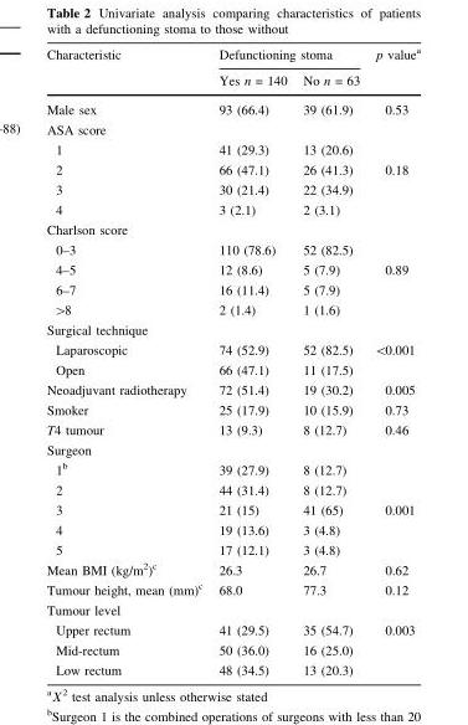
<table><thead><tr><td rowspan="2">Characteristic</td><td colspan="2">Defunctioning stoma</td><td rowspan="2">p value<sup>a</sup></td></tr><tr><td>Yes n = 140</td><td>No n = 63</td></tr></thead><tbody><tr><td>Male sex</td><td>93 (66.4)</td><td>39 (61.9)</td><td>0.53</td></tr><tr><td colspan="4">ASA score</td></tr><tr><td>1</td><td>41 (29.3)</td><td>13 (20.6)</td><td></td></tr><tr><td>2</td><td>66 (47.1)</td><td>26 (41.3)</td><td>0.18</td></tr><tr><td>3</td><td>30 (21.4)</td><td>22 (34.9)</td><td></td></tr><tr><td>4</td><td>3 (2.1)</td><td>2 (3.1)</td><td></td></tr><tr><td colspan="4">Charlson score</td></tr><tr><td>0–3</td><td>110 (78.6)</td><td>52 (82.5)</td><td></td></tr><tr><td>4–5</td><td>12 (8.6)</td><td>5 (7.9)</td><td>0.89</td></tr><tr><td>6–7</td><td>16 (11.4)</td><td>5 (7.9)</td><td></td></tr><tr><td>&gt;8</td><td>2 (1.4)</td><td>1 (1.6)</td><td></td></tr><tr><td colspan="4">Surgical technique</td></tr><tr><td>Laparoscopic</td><td>74 (52.9)</td><td>52 (82.5)</td><td>&lt;0.001</td></tr><tr><td>Open</td><td>66 (47.1)</td><td>11 (17.5)</td><td></td></tr><tr><td>Neoadjuvant radiotherapy</td><td>72 (51.4)</td><td>19 (30.2)</td><td>0.005</td></tr><tr><td>Smoker</td><td>25 (17.9)</td><td>10 (15.9)</td><td>0.73</td></tr><tr><td>T4 tumour</td><td>13 (9.3)</td><td>8 (12.7)</td><td>0.46</td></tr><tr><td colspan="4">Surgeon</td></tr><tr><td>1<sup>b</sup></td><td>39 (27.9)</td><td>8 (12.7)</td><td></td></tr><tr><td>2</td><td>44 (31.4)</td><td>8 (12.7)</td><td></td></tr><tr><td>3</td><td>21 (15)</td><td>41 (65)</td><td>0.001</td></tr><tr><td>4</td><td>19 (13.6)</td><td>3 (4.8)</td><td></td></tr><tr><td>5</td><td>17 (12.1)</td><td>3 (4.8)</td><td></td></tr><tr><td>Mean BMI (kg/m<sup>2</sup>)<sup>c</sup></td><td>26.3</td><td>26.7</td><td>0.62</td></tr><tr><td>Tumour height, mean (mm)<sup>c</sup></td><td>68.0</td><td>77.3</td><td>0.12</td></tr><tr><td colspan="4">Tumour level</td></tr><tr><td>Upper rectum</td><td>41 (29.5)</td><td>35 (54.7)</td><td>0.003</td></tr><tr><td>Mid-rectum</td><td>50 (36.0)</td><td>16 (25.0)</td><td></td></tr><tr><td>Low rectum</td><td>48 (34.5)</td><td>13 (20.3)</td><td></td></tr></tbody></table>